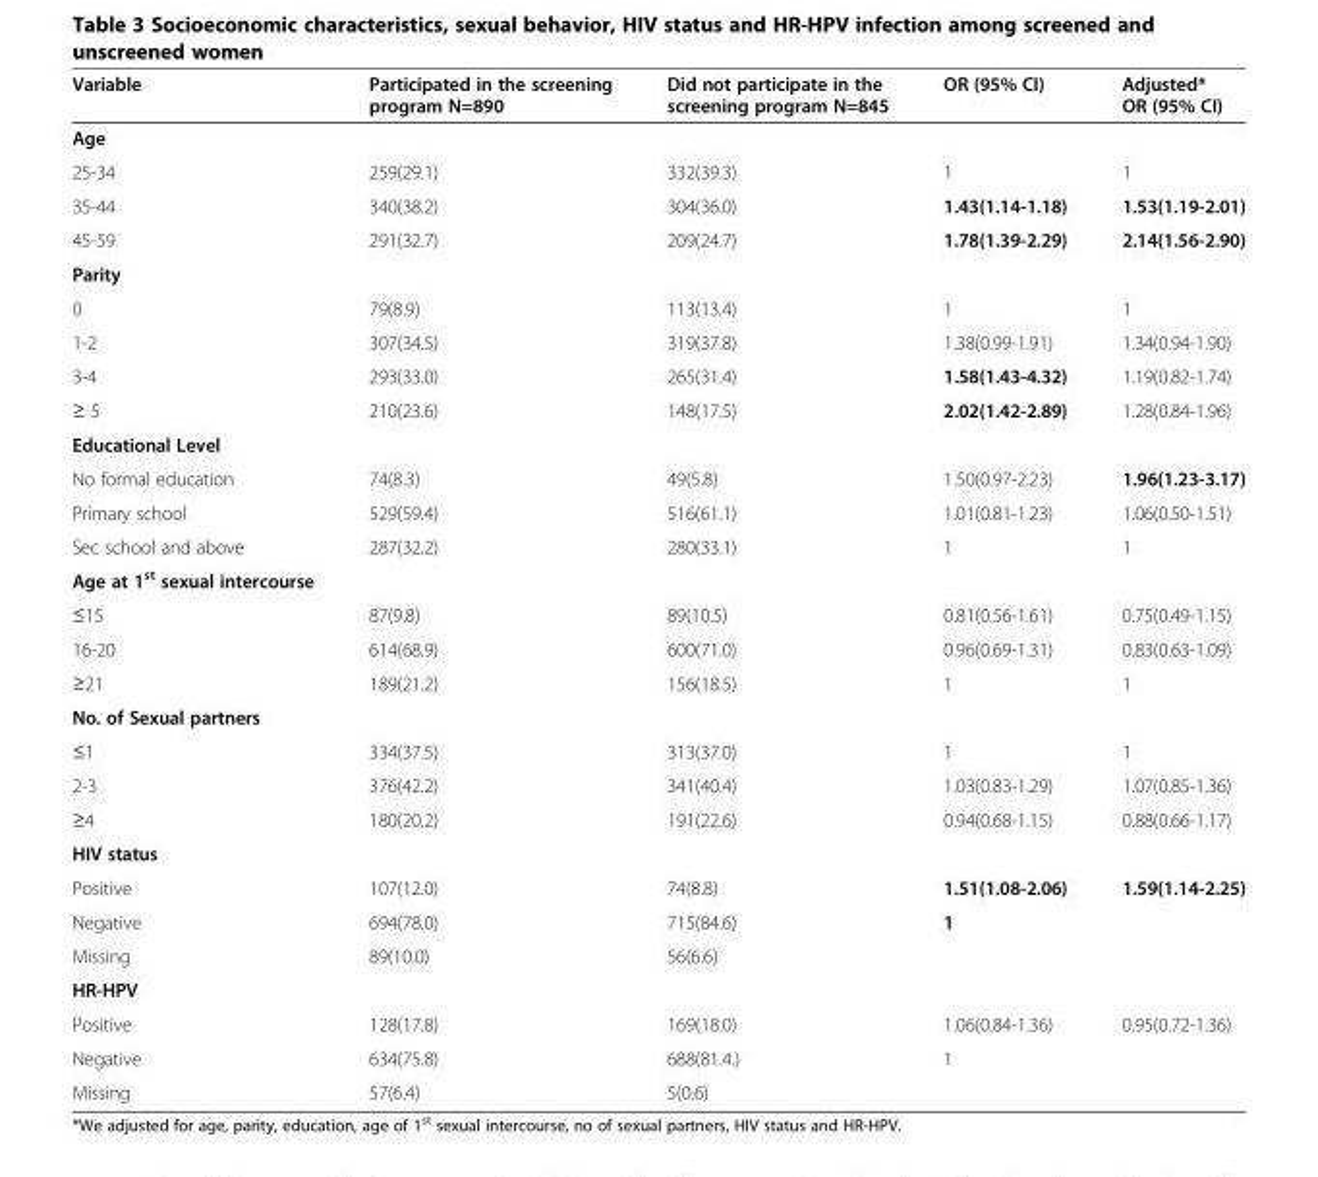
<table><thead><tr><td>Variable</td><td>Participated in the screening program N=890</td><td>Did not participate in the screening program N=845</td><td>OR (95% CI)</td><td>Adjusted* OR (95% CI)</td></tr></thead><tbody><tr><td colspan="5">Age</td></tr><tr><td>25-34</td><td>259(29.1)</td><td>332(39.3)</td><td>1</td><td>1</td></tr><tr><td>35-44</td><td>340(38.2)</td><td>304(36.0)</td><td>1.43(1.14-1.18)</td><td>1.53(1.19-2.01)</td></tr><tr><td>45-59</td><td>291(32.7)</td><td>209(24.7)</td><td>1.78(1.39-2.29)</td><td>2.14(1.56-2.90)</td></tr><tr><td colspan="5">Parity</td></tr><tr><td>0</td><td>79(8.9)</td><td>113(13.4)</td><td>1</td><td>1</td></tr><tr><td>1-2</td><td>307(34.5)</td><td>319(37.8)</td><td>1.38(0.99-1.91)</td><td>1.34(0.94-1.90)</td></tr><tr><td>3-4</td><td>293(33.0)</td><td>265(31.4)</td><td>1.58(1.43-4.32)</td><td>1.19(0.82-1.74)</td></tr><tr><td>≥ 5</td><td>210(23.6)</td><td>148(17.5)</td><td>2.02(1.42-2.89)</td><td>1.28(0.84-1.96)</td></tr><tr><td colspan="5">Educational Level</td></tr><tr><td>No formal education</td><td>74(8.3)</td><td>49(5.8)</td><td>1.50(0.97-2.23)</td><td>1.96(1.23-3.17)</td></tr><tr><td>Primary school</td><td>529(59.4)</td><td>516(61.1)</td><td>1.01(0.81-1.23)</td><td>1.06(0.50-1.51)</td></tr><tr><td>Sec school and above</td><td>287(32.2)</td><td>280(33.1)</td><td>1</td><td>1</td></tr><tr><td colspan="5">Age at 1<sup>st</sup> sexual intercourse</td></tr><tr><td>≤15</td><td>87(9.8)</td><td>89(10.5)</td><td>0.81(0.56-1.61)</td><td>0.75(0.49-1.15)</td></tr><tr><td>16-20</td><td>614(68.9)</td><td>600(71.0)</td><td>0.96(0.69-1.31)</td><td>0.83(0.63-1.09)</td></tr><tr><td>≥21</td><td>189(21.2)</td><td>156(18.5)</td><td>1</td><td>1</td></tr><tr><td colspan="5">No. of Sexual partners</td></tr><tr><td>≤1</td><td>334(37.5)</td><td>313(37.0)</td><td>1</td><td>1</td></tr><tr><td>2-3</td><td>376(42.2)</td><td>341(40.4)</td><td>1.03(0.83-1.29)</td><td>1.07(0.85-1.36)</td></tr><tr><td>≥4</td><td>180(20.2)</td><td>191(22.6)</td><td>0.94(0.68-1.15)</td><td>0.88(0.66-1.17)</td></tr><tr><td colspan="5">HIV status</td></tr><tr><td>Positive</td><td>107(12.0)</td><td>74(8.8)</td><td>1.51(1.08-2.06)</td><td>1.59(1.14-2.25)</td></tr><tr><td>Negative</td><td>694(78.0)</td><td>715(84.6)</td><td>1</td><td></td></tr><tr><td>Missing</td><td>89(10.0)</td><td>56(6.6)</td><td></td><td></td></tr><tr><td colspan="5">HR-HPV</td></tr><tr><td>Positive</td><td>128(17.8)</td><td>169(18.0)</td><td>1.06(0.84-1.36)</td><td>0.95(0.72-1.36)</td></tr><tr><td>Negative</td><td>634(75.8)</td><td>688(81.4.)</td><td>1</td><td></td></tr><tr><td>Missing</td><td>57(6.4)</td><td>5(0.6)</td><td></td><td></td></tr></tbody></table>